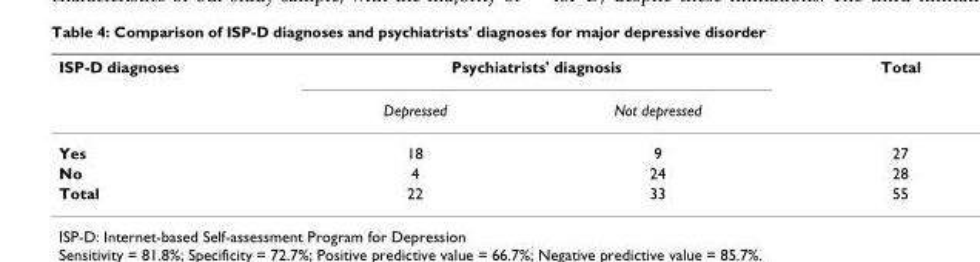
<table><thead><tr><td rowspan="2">ISP-D diagnoses</td><td colspan="2">Psychiatrists&#x27; diagnosis</td><td rowspan="2">Total</td></tr><tr><td>Depressed</td><td>Not depressed</td></tr></thead><tbody><tr><td>Yes</td><td>18</td><td>9</td><td>27</td></tr><tr><td>No</td><td>4</td><td>24</td><td>28</td></tr><tr><td>Total</td><td>22</td><td>33</td><td>55</td></tr></tbody></table>